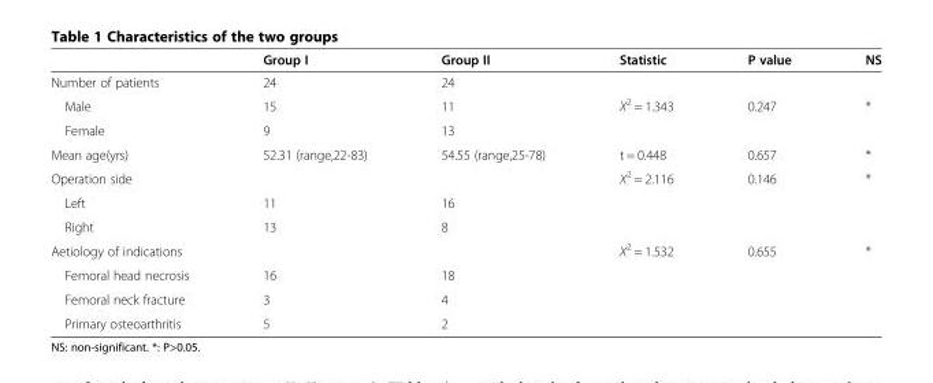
<table><thead><tr><td></td><td>Group I</td><td>Group II</td><td>Statistic</td><td>P value</td><td>NS</td></tr></thead><tbody><tr><td>Number of patients</td><td>24</td><td>24</td><td></td><td></td><td></td></tr><tr><td>Male</td><td>15</td><td>11</td><td>X<sup>2</sup> = 1.343</td><td>0.247</td><td>*</td></tr><tr><td>Female</td><td>9</td><td>13</td><td></td><td></td><td></td></tr><tr><td>Mean age(yrs)</td><td>52.31 (range,22-83)</td><td>54.55 (range,25-78)</td><td>t = 0.448</td><td>0.657</td><td>*</td></tr><tr><td>Operation side</td><td></td><td></td><td>X<sup>2</sup> = 2.116</td><td>0.146</td><td>*</td></tr><tr><td>Left</td><td>11</td><td>16</td><td></td><td></td><td></td></tr><tr><td>Right</td><td>13</td><td>8</td><td></td><td></td><td></td></tr><tr><td>Aetiology of indications</td><td></td><td></td><td>X<sup>2</sup> = 1.532</td><td>0.655</td><td>*</td></tr><tr><td>Femoral head necrosis</td><td>16</td><td>18</td><td></td><td></td><td></td></tr><tr><td>Femoral neck fracture</td><td>3</td><td>4</td><td></td><td></td><td></td></tr><tr><td>Primary osteoarthritis</td><td>5</td><td>2</td><td></td><td></td><td></td></tr></tbody></table>